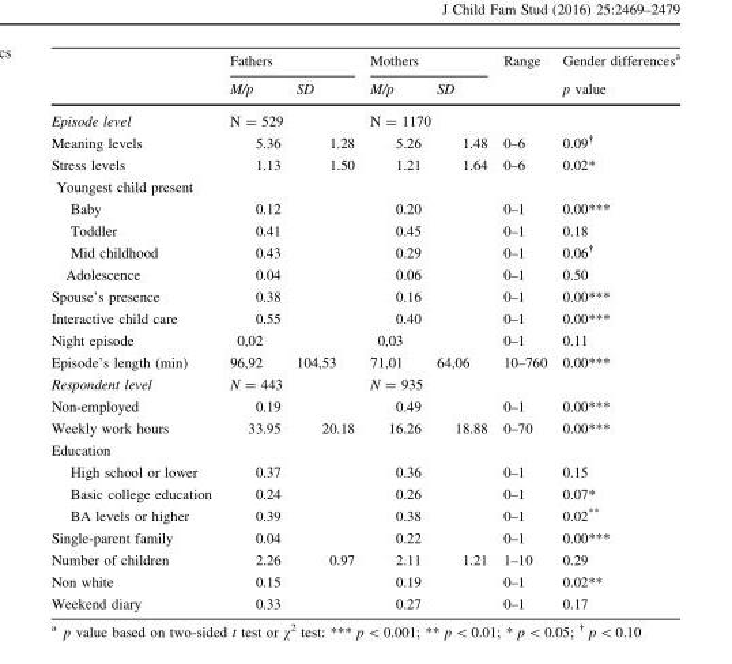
<table><thead><tr><td rowspan="2"></td><td colspan="2">Fathers</td><td colspan="2">Mothers</td><td rowspan="2">Range</td><td rowspan="2">Gender differences<sup>a</sup> p value</td></tr><tr><td>M/p</td><td>SD</td><td>M/p</td><td>SD</td></tr></thead><tbody><tr><td>Episode level</td><td colspan="2">N = 529</td><td colspan="2">N = 1170</td><td></td><td></td></tr><tr><td>Meaning levels</td><td>5.36</td><td>1.28</td><td>5.26</td><td>1.48</td><td>0–6</td><td>0.09<sup>†</sup></td></tr><tr><td>Stress levels</td><td>1.13</td><td>1.50</td><td>1.21</td><td>1.64</td><td>0–6</td><td>0.02*</td></tr><tr><td colspan="7">Youngest child present</td></tr><tr><td>Baby</td><td>0.12</td><td></td><td>0.20</td><td></td><td>0–1</td><td>0.00***</td></tr><tr><td>Toddler</td><td>0.41</td><td></td><td>0.45</td><td></td><td>0–1</td><td>0.18</td></tr><tr><td>Mid childhood</td><td>0.43</td><td></td><td>0.29</td><td></td><td>0–1</td><td>0.06<sup>†</sup></td></tr><tr><td>Adolescence</td><td>0.04</td><td></td><td>0.06</td><td></td><td>0–1</td><td>0.50</td></tr><tr><td>Spouse’s presence</td><td>0.38</td><td></td><td>0.16</td><td></td><td>0–1</td><td>0.00***</td></tr><tr><td>Interactive child care</td><td>0.55</td><td></td><td>0.40</td><td></td><td>0–1</td><td>0.00***</td></tr><tr><td>Night episode</td><td>0,02</td><td></td><td>0,03</td><td></td><td>0–1</td><td>0.11</td></tr><tr><td>Episode’s length (min)</td><td>96,92</td><td>104,53</td><td>71,01</td><td>64,06</td><td>10–760</td><td>0.00***</td></tr><tr><td>Respondent level</td><td colspan="2">N = 443</td><td colspan="2">N = 935</td><td></td><td></td></tr><tr><td>Non-employed</td><td>0.19</td><td></td><td>0.49</td><td></td><td>0–1</td><td>0.00***</td></tr><tr><td>Weekly work hours</td><td>33.95</td><td>20.18</td><td>16.26</td><td>18.88</td><td>0–70</td><td>0.00***</td></tr><tr><td colspan="7">Education</td></tr><tr><td>High school or lower</td><td>0.37</td><td></td><td>0.36</td><td></td><td>0–1</td><td>0.15</td></tr><tr><td>Basic college education</td><td>0.24</td><td></td><td>0.26</td><td></td><td>0–1</td><td>0.07*</td></tr><tr><td>BA levels or higher</td><td>0.39</td><td></td><td>0.38</td><td></td><td>0–1</td><td>0.02**</td></tr><tr><td>Single-parent family</td><td>0.04</td><td></td><td>0.22</td><td></td><td>0–1</td><td>0.00***</td></tr><tr><td>Number of children</td><td>2.26</td><td>0.97</td><td>2.11</td><td>1.21</td><td>1–10</td><td>0.29</td></tr><tr><td>Non white</td><td>0.15</td><td></td><td>0.19</td><td></td><td>0–1</td><td>0.02**</td></tr><tr><td>Weekend diary</td><td>0.33</td><td></td><td>0.27</td><td></td><td>0–1</td><td>0.17</td></tr></tbody></table>